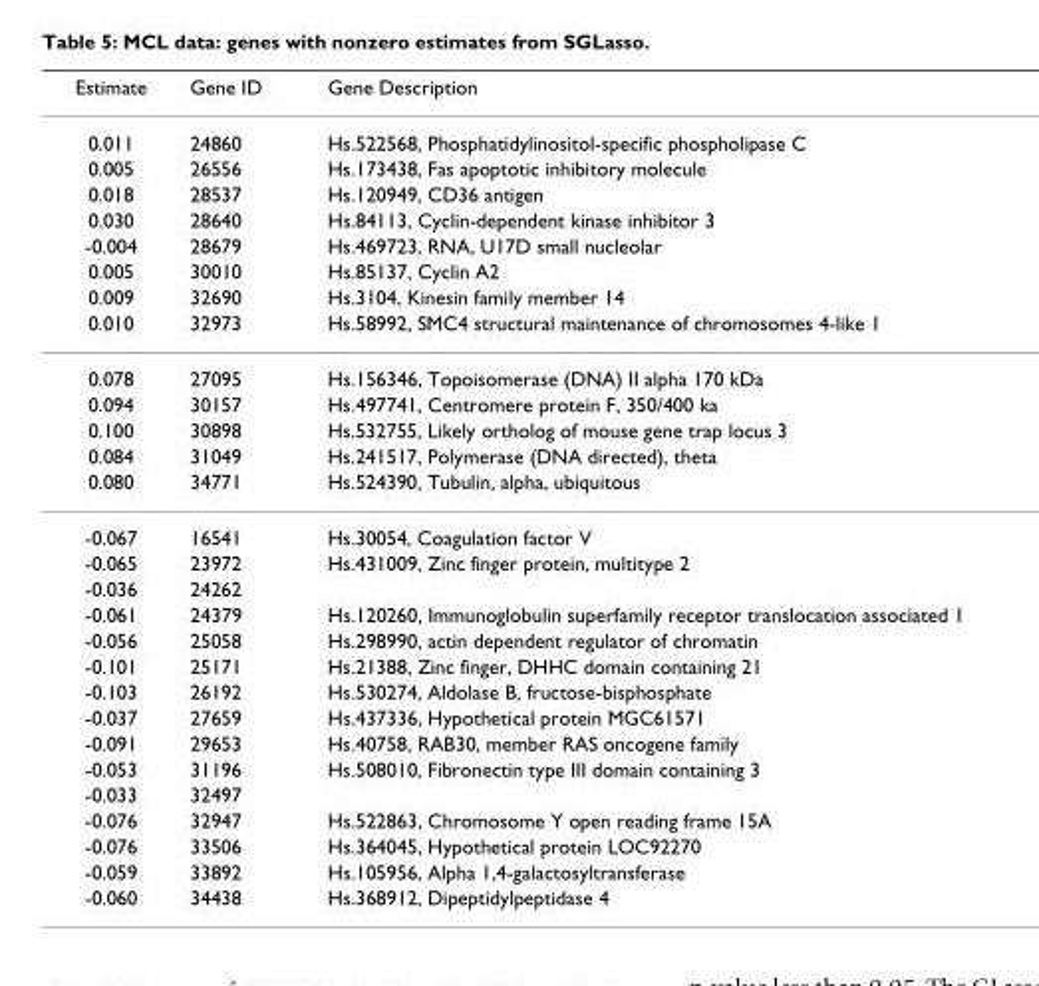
<table><thead><tr><td>Estimate</td><td>Gene ID</td><td>Gene Description</td></tr></thead><tbody><tr><td>0.011</td><td>24860</td><td>Hs.522568, Phosphatidylinositol-specific phospholipase C</td></tr><tr><td>0.005</td><td>26556</td><td>Hs.173438, Fas apoptotic inhibitory molecule</td></tr><tr><td>0.018</td><td>28537</td><td>Hs.120949, CD36 antigen</td></tr><tr><td>0.030</td><td>28640</td><td>Hs.84113, Cyclin-dependent kinase inhibitor 3</td></tr><tr><td>-0.004</td><td>28679</td><td>Hs.469723, RNA, U17D small nucleolar</td></tr><tr><td>0.005</td><td>30010</td><td>Hs.85137, Cyclin A2</td></tr><tr><td>0.009</td><td>32690</td><td>Hs.3104, Kinesin family member 14</td></tr><tr><td>0.010</td><td>32973</td><td>Hs.58992, SMC4 structural maintenance of chromosomes 4-like 1</td></tr><tr><td>0.078</td><td>27095</td><td>Hs.156346, Topoisomerase (DNA) II alpha 170 kDa</td></tr><tr><td>0.094</td><td>30157</td><td>Hs.497741, Centromere protein F, 350/400 ka</td></tr><tr><td>0.100</td><td>30898</td><td>Hs.532755, Likely ortholog of mouse gene trap locus 3</td></tr><tr><td>0.084</td><td>31049</td><td>Hs.241517, Polymerase (DNA directed), theta</td></tr><tr><td>0.080</td><td>34771</td><td>Hs.524390, Tubulin, alpha, ubiquitous</td></tr><tr><td>-0.067</td><td>16541</td><td>Hs.30054, Coagulation factor V</td></tr><tr><td>-0.065</td><td>23972</td><td>Hs.431009, Zinc finger protein, multitype 2</td></tr><tr><td>-0.036</td><td>24262</td><td></td></tr><tr><td>-0.061</td><td>24379</td><td>Hs.120260, Immunoglobulin superfamily receptor translocation associated 1</td></tr><tr><td>-0.056</td><td>25058</td><td>Hs.298990, actin dependent regulator of chromatin</td></tr><tr><td>-0.101</td><td>25171</td><td>Hs.21388, Zinc finger, DHHC domain containing 21</td></tr><tr><td>-0.103</td><td>26192</td><td>Hs.530274, Aldolase B, fructose-bisphosphate</td></tr><tr><td>-0.037</td><td>27659</td><td>Hs.437336, Hypothetical protein MGC61571</td></tr><tr><td>-0.091</td><td>29653</td><td>Hs.40758, RAB30, member RAS oncogene family</td></tr><tr><td>-0.053</td><td>31196</td><td>Hs.508010, Fibronectin type III domain containing 3</td></tr><tr><td>-0.033</td><td>32497</td><td></td></tr><tr><td>-0.076</td><td>32947</td><td>Hs.522863, Chromosome Y open reading frame 15A</td></tr><tr><td>-0.076</td><td>33506</td><td>Hs.364045, Hypothetical protein LOC92270</td></tr><tr><td>-0.059</td><td>33892</td><td>Hs.105956, Alpha 1,4-galactosyltransferase</td></tr><tr><td>-0.060</td><td>34438</td><td>Hs.368912, Dipeptidylpeptidase 4</td></tr></tbody></table>